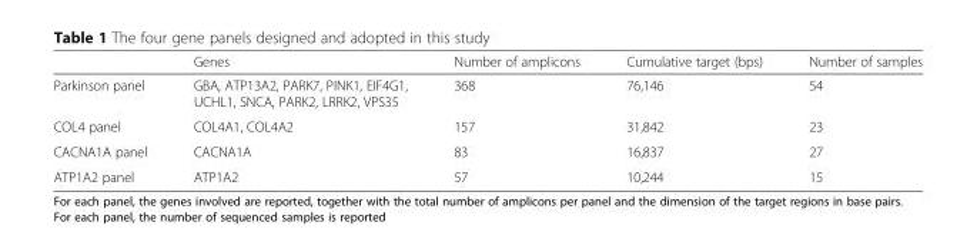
<table><thead><tr><td></td><td>Genes</td><td>Number of amplicons</td><td>Cumulative target (bps)</td><td>Number of samples</td></tr></thead><tbody><tr><td>Parkinson panel</td><td>GBA, ATP13A2, PARK7, PINK1, EIF4G1, UCHL1, SNCA, PARK2, LRRK2, VPS35</td><td>368</td><td>76,146</td><td>54</td></tr><tr><td>COL4 panel</td><td>COL4A1, COL4A2</td><td>157</td><td>31,842</td><td>23</td></tr><tr><td>CACNA1A panel</td><td>CACNA1A</td><td>83</td><td>16,837</td><td>27</td></tr><tr><td>ATP1A2 panel</td><td>ATP1A2</td><td>57</td><td>10,244</td><td>15</td></tr></tbody></table>